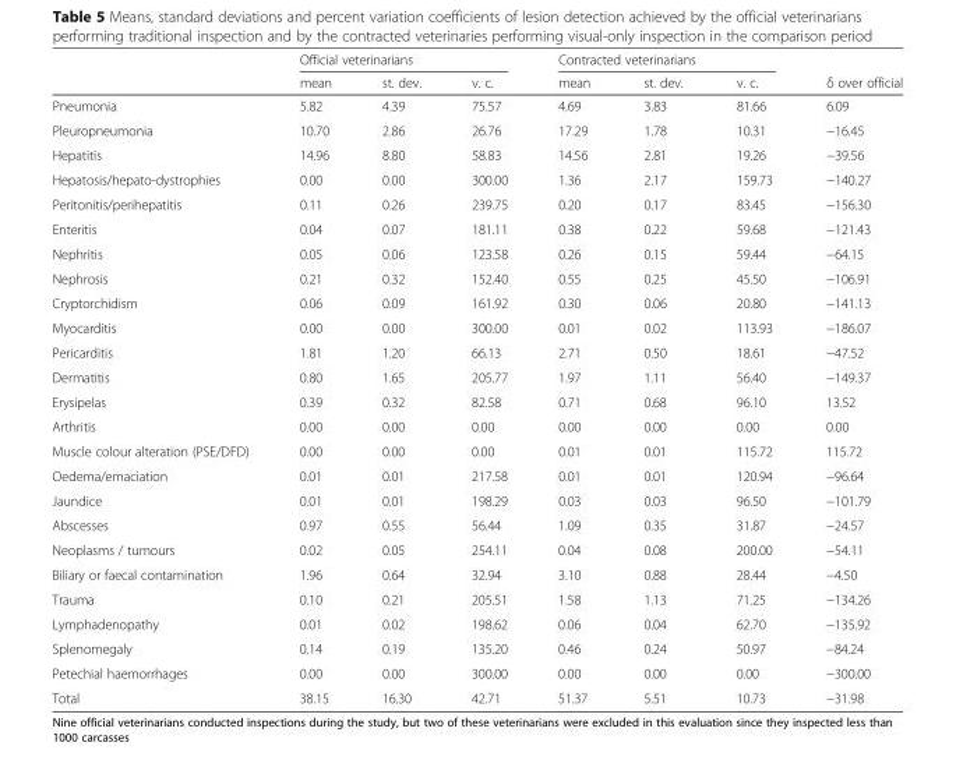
<table><thead><tr><td rowspan="2"></td><td colspan="3">Official veterinarians</td><td colspan="3">Contracted veterinarians</td><td rowspan="2">δ over official</td></tr><tr><td>mean</td><td>st. dev.</td><td>v. c.</td><td>mean</td><td>st. dev.</td><td>v. c.</td></tr></thead><tbody><tr><td>Pneumonia</td><td>5.82</td><td>4.39</td><td>75.57</td><td>4.69</td><td>3.83</td><td>81.66</td><td>6.09</td></tr><tr><td>Pleuropneumonia</td><td>10.70</td><td>2.86</td><td>26.76</td><td>17.29</td><td>1.78</td><td>10.31</td><td>−16.45</td></tr><tr><td>Hepatitis</td><td>14.96</td><td>8.80</td><td>58.83</td><td>14.56</td><td>2.81</td><td>19.26</td><td>−39.56</td></tr><tr><td>Hepatosis/hepato-dystrophies</td><td>0.00</td><td>0.00</td><td>300.00</td><td>1.36</td><td>2.17</td><td>159.73</td><td>−140.27</td></tr><tr><td>Peritonitis/perihepatitis</td><td>0.11</td><td>0.26</td><td>239.75</td><td>0.20</td><td>0.17</td><td>83.45</td><td>−156.30</td></tr><tr><td>Enteritis</td><td>0.04</td><td>0.07</td><td>181.11</td><td>0.38</td><td>0.22</td><td>59.68</td><td>−121.43</td></tr><tr><td>Nephritis</td><td>0.05</td><td>0.06</td><td>123.58</td><td>0.26</td><td>0.15</td><td>59.44</td><td>−64.15</td></tr><tr><td>Nephrosis</td><td>0.21</td><td>0.32</td><td>152.40</td><td>0.55</td><td>0.25</td><td>45.50</td><td>−106.91</td></tr><tr><td>Cryptorchidism</td><td>0.06</td><td>0.09</td><td>161.92</td><td>0.30</td><td>0.06</td><td>20.80</td><td>−141.13</td></tr><tr><td>Myocarditis</td><td>0.00</td><td>0.00</td><td>300.00</td><td>0.01</td><td>0.02</td><td>113.93</td><td>−186.07</td></tr><tr><td>Pericarditis</td><td>1.81</td><td>1.20</td><td>66.13</td><td>2.71</td><td>0.50</td><td>18.61</td><td>−47.52</td></tr><tr><td>Dermatitis</td><td>0.80</td><td>1.65</td><td>205.77</td><td>1.97</td><td>1.11</td><td>56.40</td><td>−149.37</td></tr><tr><td>Erysipelas</td><td>0.39</td><td>0.32</td><td>82.58</td><td>0.71</td><td>0.68</td><td>96.10</td><td>13.52</td></tr><tr><td>Arthritis</td><td>0.00</td><td>0.00</td><td>0.00</td><td>0.00</td><td>0.00</td><td>0.00</td><td>0.00</td></tr><tr><td>Muscle colour alteration (PSE/DFD)</td><td>0.00</td><td>0.00</td><td>0.00</td><td>0.01</td><td>0.01</td><td>115.72</td><td>115.72</td></tr><tr><td>Oedema/emaciation</td><td>0.01</td><td>0.01</td><td>217.58</td><td>0.01</td><td>0.01</td><td>120.94</td><td>−96.64</td></tr><tr><td>Jaundice</td><td>0.01</td><td>0.01</td><td>198.29</td><td>0.03</td><td>0.03</td><td>96.50</td><td>−101.79</td></tr><tr><td>Abscesses</td><td>0.97</td><td>0.55</td><td>56.44</td><td>1.09</td><td>0.35</td><td>31.87</td><td>−24.57</td></tr><tr><td>Neoplasms / tumours</td><td>0.02</td><td>0.05</td><td>254.11</td><td>0.04</td><td>0.08</td><td>200.00</td><td>−54.11</td></tr><tr><td>Biliary or faecal contamination</td><td>1.96</td><td>0.64</td><td>32.94</td><td>3.10</td><td>0.88</td><td>28.44</td><td>−4.50</td></tr><tr><td>Trauma</td><td>0.10</td><td>0.21</td><td>205.51</td><td>1.58</td><td>1.13</td><td>71.25</td><td>−134.26</td></tr><tr><td>Lymphadenopathy</td><td>0.01</td><td>0.02</td><td>198.62</td><td>0.06</td><td>0.04</td><td>62.70</td><td>−135.92</td></tr><tr><td>Splenomegaly</td><td>0.14</td><td>0.19</td><td>135.20</td><td>0.46</td><td>0.24</td><td>50.97</td><td>−84.24</td></tr><tr><td>Petechial haemorrhages</td><td>0.00</td><td>0.00</td><td>300.00</td><td>0.00</td><td>0.00</td><td>0.00</td><td>−300.00</td></tr><tr><td>Total</td><td>38.15</td><td>16.30</td><td>42.71</td><td>51.37</td><td>5.51</td><td>10.73</td><td>−31.98</td></tr></tbody></table>